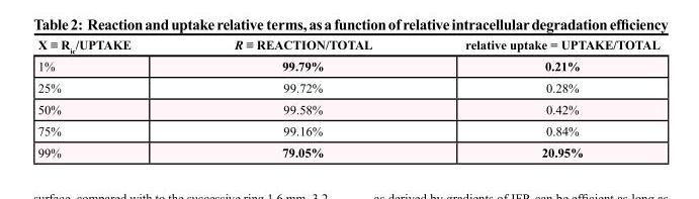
<table><thead><tr><td>X ≡ R<sub>ic</sub>/UPTAKE</td><td>R ≡ REACTION/TOTAL</td><td>relative uptake = UPTAKE/TOTAL</td></tr></thead><tbody><tr><td>1%</td><td>99.79%</td><td>0.21%</td></tr><tr><td>25%</td><td>99.72%</td><td>0.28%</td></tr><tr><td>50%</td><td>99.58%</td><td>0.42%</td></tr><tr><td>75%</td><td>99.16%</td><td>0.84%</td></tr><tr><td>99%</td><td>79.05%</td><td>20.95%</td></tr></tbody></table>